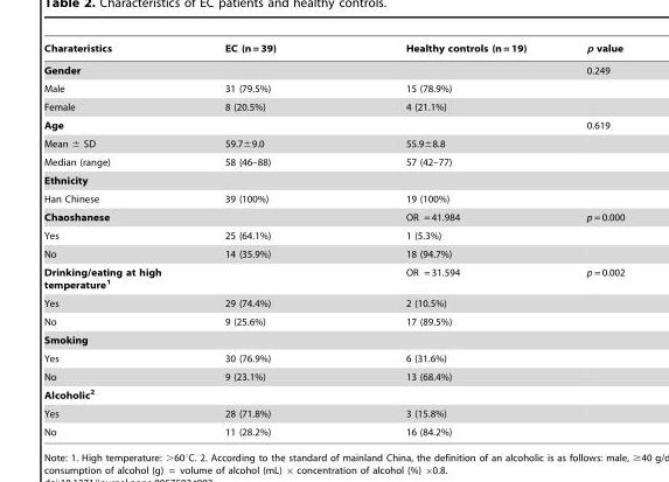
<table><thead><tr><td>Charateristics</td><td>EC (n = 39)</td><td>Healthy controls (n = 19)</td><td>p value</td></tr></thead><tbody><tr><td>Gender</td><td></td><td></td><td>0.249</td></tr><tr><td>Male</td><td>31 (79.5%)</td><td>15 (78.9%)</td><td></td></tr><tr><td>Female</td><td>8 (20.5%)</td><td>4 (21.1%)</td><td></td></tr><tr><td>Age</td><td></td><td></td><td>0.619</td></tr><tr><td>Mean ± SD</td><td>59.7±9.0</td><td>55.9±8.8</td><td></td></tr><tr><td>Median (range)</td><td>58 (46–88)</td><td>57 (42–77)</td><td></td></tr><tr><td colspan="4">Ethnicity</td></tr><tr><td>Han Chinese</td><td>39 (100%)</td><td>19 (100%)</td><td></td></tr><tr><td>Chaoshanese</td><td></td><td>OR = 41.984</td><td>p = 0.000</td></tr><tr><td>Yes</td><td>25 (64.1%)</td><td>1 (5.3%)</td><td></td></tr><tr><td>No</td><td>14 (35.9%)</td><td>18 (94.7%)</td><td></td></tr><tr><td>Drinking/eating at high temperature<sup>1</sup></td><td></td><td>OR = 31.594</td><td>p = 0.002</td></tr><tr><td>Yes</td><td>29 (74.4%)</td><td>2 (10.5%)</td><td></td></tr><tr><td>No</td><td>9 (25.6%)</td><td>17 (89.5%)</td><td></td></tr><tr><td colspan="4">Smoking</td></tr><tr><td>Yes</td><td>30 (76.9%)</td><td>6 (31.6%)</td><td></td></tr><tr><td>No</td><td>9 (23.1%)</td><td>13 (68.4%)</td><td></td></tr><tr><td colspan="4">Alcoholic<sup>2</sup></td></tr><tr><td>Yes</td><td>28 (71.8%)</td><td>3 (15.8%)</td><td></td></tr><tr><td>No</td><td>11 (28.2%)</td><td>16 (84.2%)</td><td></td></tr></tbody></table>